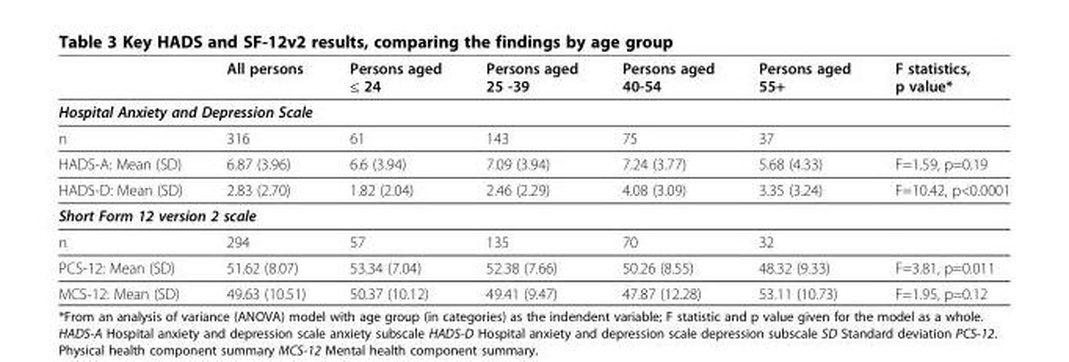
<table><thead><tr><td></td><td>All persons</td><td>Persons aged ≤ 24</td><td>Persons aged 25 -39</td><td>Persons aged 40-54</td><td>Persons aged 55+</td><td>F statistics, p value*</td></tr></thead><tbody><tr><td colspan="7">Hospital Anxiety and Depression Scale</td></tr><tr><td>n</td><td>316</td><td>61</td><td>143</td><td>75</td><td>37</td><td></td></tr><tr><td>HADS-A: Mean (SD)</td><td>6.87 (3.96)</td><td>6.6 (3.94)</td><td>7.09 (3.94)</td><td>7.24 (3.77)</td><td>5.68 (4.33)</td><td>F=1.59, p=0.19</td></tr><tr><td>HADS-D: Mean (SD)</td><td>2.83 (2.70)</td><td>1.82 (2.04)</td><td>2.46 (2.29)</td><td>4.08 (3.09)</td><td>3.35 (3.24)</td><td>F=10.42, p&lt;0.0001</td></tr><tr><td colspan="7">Short Form 12 version 2 scale</td></tr><tr><td>n</td><td>294</td><td>57</td><td>135</td><td>70</td><td>32</td><td></td></tr><tr><td>PCS-12: Mean (SD)</td><td>51.62 (8.07)</td><td>53.34 (7.04)</td><td>52.38 (7.66)</td><td>50.26 (8.55)</td><td>48.32 (9.33)</td><td>F=3.81, p=0.011</td></tr><tr><td>MCS-12: Mean (SD)</td><td>49.63 (10.51)</td><td>50.37 (10.12)</td><td>49.41 (9.47)</td><td>47.87 (12.28)</td><td>53.11 (10.73)</td><td>F=1.95, p=0.12</td></tr></tbody></table>